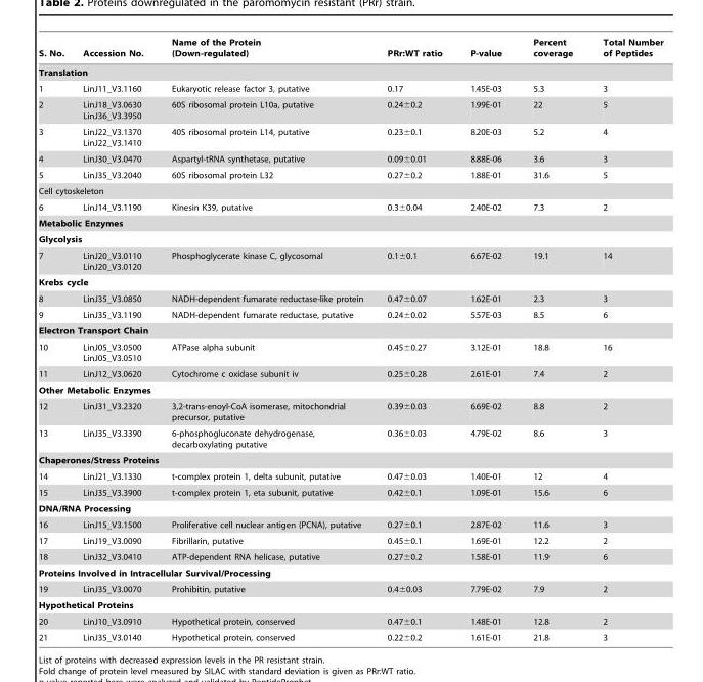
<table><thead><tr><td>S. No.</td><td>Accession No.</td><td>Name of the Protein (Down-regulated)</td><td>PRr:WT ratio</td><td>P-value</td><td>Percent coverage</td><td>Total Number of Peptides</td></tr></thead><tbody><tr><td colspan="7">Translation</td></tr><tr><td>1</td><td>LinJ11_V3.1160</td><td>Eukaryotic release factor 3, putative</td><td>0.17</td><td>1.45E-03</td><td>5.3</td><td>3</td></tr><tr><td>2</td><td>LinJ18_V3.0630 LinJ36_V3.3950</td><td>60S ribosomal protein L10a, putative</td><td>0.24±0.2</td><td>1.99E-01</td><td>22</td><td>5</td></tr><tr><td>3</td><td>LinJ22_V3.1370 LinJ22_V3.1410</td><td>40S ribosomal protein L14, putative</td><td>0.23±0.1</td><td>8.20E-03</td><td>5.2</td><td>4</td></tr><tr><td>4</td><td>LinJ30_V3.0470</td><td>Aspartyl-tRNA synthetase, putative</td><td>0.09±0.01</td><td>8.88E-06</td><td>3.6</td><td>3</td></tr><tr><td>5</td><td>LinJ35_V3.2040</td><td>60S ribosomal protein L32</td><td>0.27±0.2</td><td>1.88E-01</td><td>31.6</td><td>5</td></tr><tr><td colspan="7">Cell cytoskeleton</td></tr><tr><td>6</td><td>LinJ14_V3.1190</td><td>Kinesin K39, putative</td><td>0.3±0.04</td><td>2.40E-02</td><td>7.3</td><td>2</td></tr><tr><td colspan="7">Metabolic Enzymes</td></tr><tr><td colspan="7">Glycolysis</td></tr><tr><td>7</td><td>LinJ20_V3.0110 LinJ20_V3.0120</td><td>Phosphoglycerate kinase C, glycosomal</td><td>0.1±0.1</td><td>6.67E-02</td><td>19.1</td><td>14</td></tr><tr><td colspan="7">Krebs cycle</td></tr><tr><td>8</td><td>LinJ35_V3.0850</td><td>NADH-dependent fumarate reductase-like protein</td><td>0.47±0.07</td><td>1.62E-01</td><td>2.3</td><td>3</td></tr><tr><td>9</td><td>LinJ35_V3.1190</td><td>NADH-dependent fumarate reductase, putative</td><td>0.24±0.02</td><td>5.57E-03</td><td>8.5</td><td>6</td></tr><tr><td colspan="7">Electron Transport Chain</td></tr><tr><td>10</td><td>LinJ05_V3.0500 LinJ05_V3.0510</td><td>ATPase alpha subunit</td><td>0.45±0.27</td><td>3.12E-01</td><td>18.8</td><td>16</td></tr><tr><td>11</td><td>LinJ12_V3.0620</td><td>Cytochrome c oxidase subunit iv</td><td>0.25±0.28</td><td>2.61E-01</td><td>7.4</td><td>2</td></tr><tr><td colspan="7">Other Metabolic Enzymes</td></tr><tr><td>12</td><td>LinJ31_V3.2320</td><td>3,2-trans-enoyl-CoA isomerase, mitochondrial precursor, putative</td><td>0.39±0.03</td><td>6.69E-02</td><td>8.8</td><td>2</td></tr><tr><td>13</td><td>LinJ35_V3.3390</td><td>6-phosphogluconate dehydrogenase, decarboxylating putative</td><td>0.36±0.03</td><td>4.79E-02</td><td>8.6</td><td>3</td></tr><tr><td colspan="7">Chaperones/Stress Proteins</td></tr><tr><td>14</td><td>LinJ21_V3.1330</td><td>t-complex protein 1, delta subunit, putative</td><td>0.47±0.03</td><td>1.40E-01</td><td>12</td><td>4</td></tr><tr><td>15</td><td>LinJ35_V3.3900</td><td>t-complex protein 1, eta subunit, putative</td><td>0.42±0.1</td><td>1.09E-01</td><td>15.6</td><td>6</td></tr><tr><td colspan="7">DNA/RNA Processing</td></tr><tr><td>16</td><td>LinJ15_V3.1500</td><td>Proliferative cell nuclear antigen (PCNA), putative</td><td>0.27±0.1</td><td>2.87E-02</td><td>11.6</td><td>3</td></tr><tr><td>17</td><td>LinJ19_V3.0090</td><td>Fibrillarin, putative</td><td>0.45±0.1</td><td>1.69E-01</td><td>12.2</td><td>2</td></tr><tr><td>18</td><td>LinJ32_V3.0410</td><td>ATP-dependent RNA helicase, putative</td><td>0.27±0.2</td><td>1.58E-01</td><td>11.9</td><td>6</td></tr><tr><td colspan="7">Proteins Involved in Intracellular Survival/Processing</td></tr><tr><td>19</td><td>LinJ35_V3.0070</td><td>Prohibitin, putative</td><td>0.4±0.03</td><td>7.79E-02</td><td>7.9</td><td>2</td></tr><tr><td colspan="7">Hypothetical Proteins</td></tr><tr><td>20</td><td>LinJ10_V3.0910</td><td>Hypothetical protein, conserved</td><td>0.47±0.1</td><td>1.48E-01</td><td>12.8</td><td>2</td></tr><tr><td>21</td><td>LinJ35_V3.0140</td><td>Hypothetical protein, conserved</td><td>0.22±0.2</td><td>1.61E-01</td><td>21.8</td><td>3</td></tr></tbody></table>